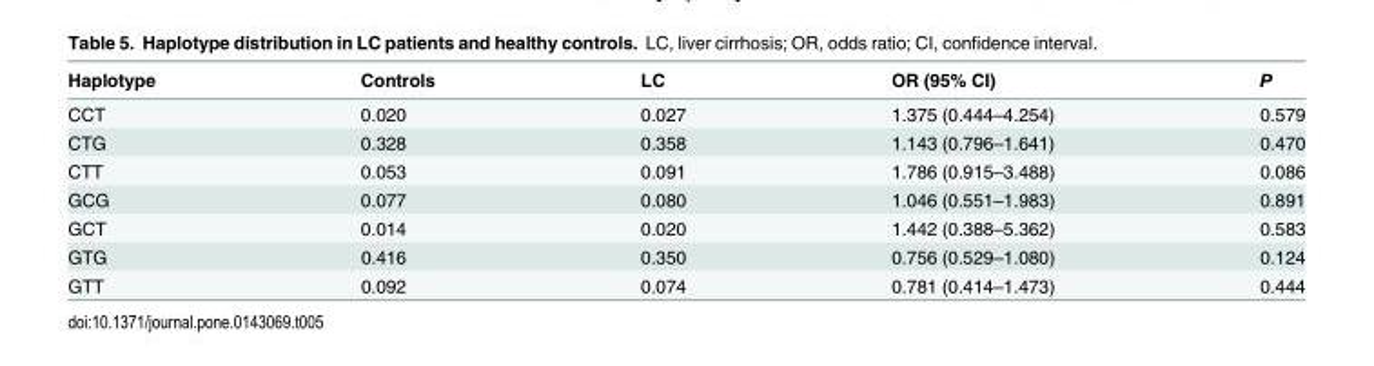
<table><thead><tr><td>Haplotype</td><td>Controls</td><td>LC</td><td>OR (95% CI)</td><td>P</td></tr></thead><tbody><tr><td>CCT</td><td>0.020</td><td>0.027</td><td>1.375 (0.444–4.254)</td><td>0.579</td></tr><tr><td>CTG</td><td>0.328</td><td>0.358</td><td>1.143 (0.796–1.641)</td><td>0.470</td></tr><tr><td>CTT</td><td>0.053</td><td>0.091</td><td>1.786 (0.915–3.488)</td><td>0.086</td></tr><tr><td>GCG</td><td>0.077</td><td>0.080</td><td>1.046 (0.551–1.983)</td><td>0.891</td></tr><tr><td>GCT</td><td>0.014</td><td>0.020</td><td>1.442 (0.388–5.362)</td><td>0.583</td></tr><tr><td>GTG</td><td>0.416</td><td>0.350</td><td>0.756 (0.529–1.080)</td><td>0.124</td></tr><tr><td>GTT</td><td>0.092</td><td>0.074</td><td>0.781 (0.414–1.473)</td><td>0.444</td></tr></tbody></table>